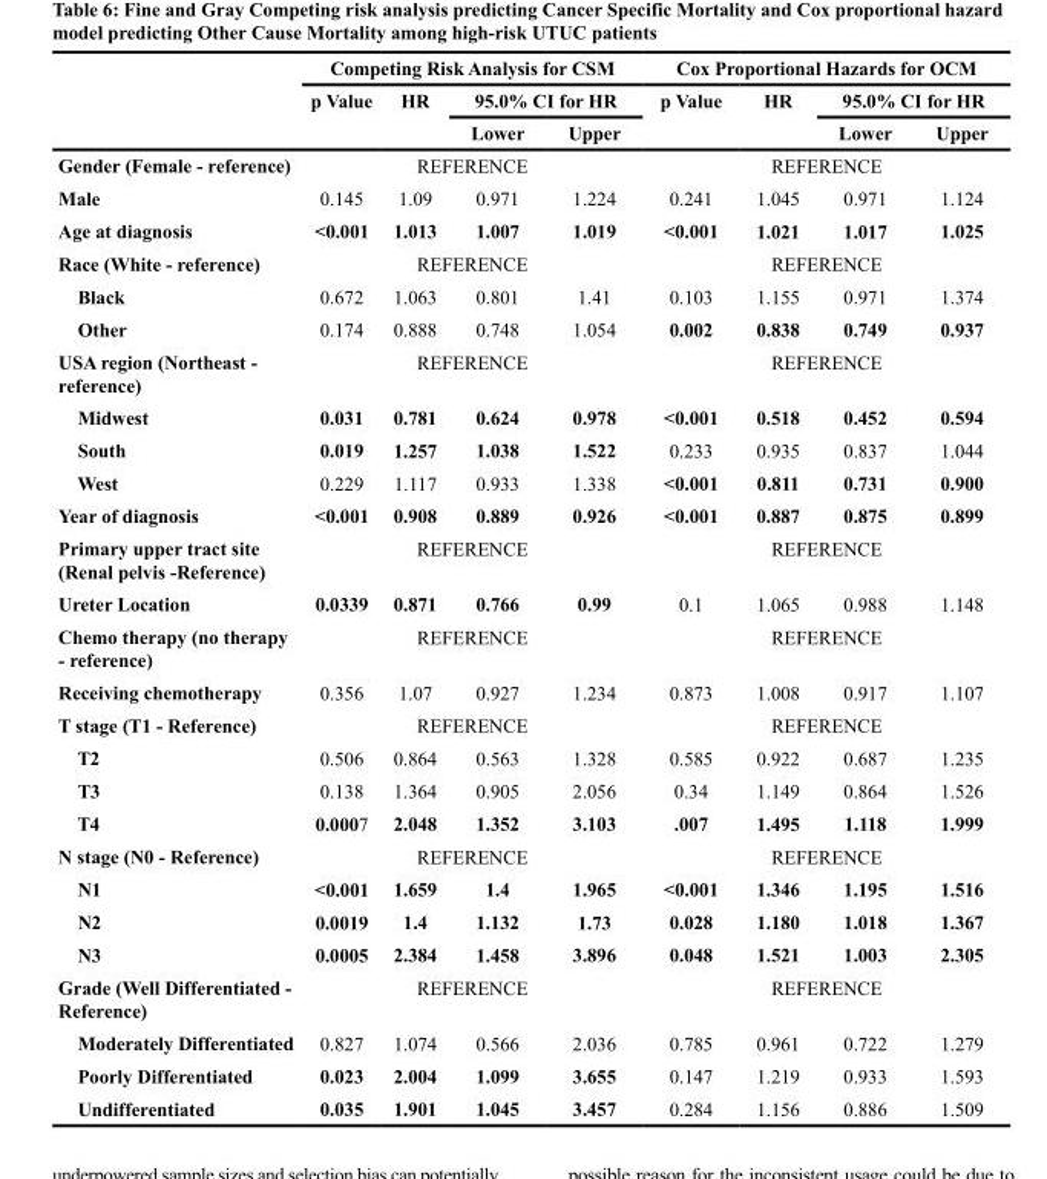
<table><thead><tr><td rowspan="3"></td><td colspan="4">Competing Risk Analysis for CSM</td><td colspan="4">Cox Proportional Hazards for OCM</td></tr><tr><td rowspan="2">p Value</td><td rowspan="2">HR</td><td colspan="2">95.0% CI for HR</td><td rowspan="2">p Value</td><td rowspan="2">HR</td><td colspan="2">95.0% CI for HR</td></tr><tr><td>Lower</td><td>Upper</td><td>Lower</td><td>Upper</td></tr></thead><tbody><tr><td>Gender (Female - reference)</td><td colspan="4">REFERENCE</td><td colspan="4">REFERENCE</td></tr><tr><td>Male</td><td>0.145</td><td>1.09</td><td>0.971</td><td>1.224</td><td>0.241</td><td>1.045</td><td>0.971</td><td>1.124</td></tr><tr><td>Age at diagnosis</td><td>&lt;0.001</td><td>1.013</td><td>1.007</td><td>1.019</td><td>&lt;0.001</td><td>1.021</td><td>1.017</td><td>1.025</td></tr><tr><td>Race (White - reference)</td><td colspan="4">REFERENCE</td><td colspan="4">REFERENCE</td></tr><tr><td>Black</td><td>0.672</td><td>1.063</td><td>0.801</td><td>1.41</td><td>0.103</td><td>1.155</td><td>0.971</td><td>1.374</td></tr><tr><td>Other</td><td>0.174</td><td>0.888</td><td>0.748</td><td>1.054</td><td>0.002</td><td>0.838</td><td>0.749</td><td>0.937</td></tr><tr><td>USA region (Northeast - reference)</td><td colspan="4">REFERENCE</td><td colspan="4">REFERENCE</td></tr><tr><td>Midwest</td><td>0.031</td><td>0.781</td><td>0.624</td><td>0.978</td><td>&lt;0.001</td><td>0.518</td><td>0.452</td><td>0.594</td></tr><tr><td>South</td><td>0.019</td><td>1.257</td><td>1.038</td><td>1.522</td><td>0.233</td><td>0.935</td><td>0.837</td><td>1.044</td></tr><tr><td>West</td><td>0.229</td><td>1.117</td><td>0.933</td><td>1.338</td><td>&lt;0.001</td><td>0.811</td><td>0.731</td><td>0.900</td></tr><tr><td>Year of diagnosis</td><td>&lt;0.001</td><td>0.908</td><td>0.889</td><td>0.926</td><td>&lt;0.001</td><td>0.887</td><td>0.875</td><td>0.899</td></tr><tr><td>Primary upper tract site (Renal pelvis -Reference)</td><td colspan="4">REFERENCE</td><td colspan="4">REFERENCE</td></tr><tr><td>Ureter Location</td><td>0.0339</td><td>0.871</td><td>0.766</td><td>0.99</td><td>0.1</td><td>1.065</td><td>0.988</td><td>1.148</td></tr><tr><td>Chemo therapy (no therapy - reference)</td><td colspan="4">REFERENCE</td><td colspan="4">REFERENCE</td></tr><tr><td>Receiving chemotherapy</td><td>0.356</td><td>1.07</td><td>0.927</td><td>1.234</td><td>0.873</td><td>1.008</td><td>0.917</td><td>1.107</td></tr><tr><td>T stage (T1 - Reference)</td><td colspan="4">REFERENCE</td><td colspan="4">REFERENCE</td></tr><tr><td>T2</td><td>0.506</td><td>0.864</td><td>0.563</td><td>1.328</td><td>0.585</td><td>0.922</td><td>0.687</td><td>1.235</td></tr><tr><td>T3</td><td>0.138</td><td>1.364</td><td>0.905</td><td>2.056</td><td>0.34</td><td>1.149</td><td>0.864</td><td>1.526</td></tr><tr><td>T4</td><td>0.0007</td><td>2.048</td><td>1.352</td><td>3.103</td><td>.007</td><td>1.495</td><td>1.118</td><td>1.999</td></tr><tr><td>N stage (N0 - Reference)</td><td colspan="4">REFERENCE</td><td colspan="4">REFERENCE</td></tr><tr><td>N1</td><td>&lt;0.001</td><td>1.659</td><td>1.4</td><td>1.965</td><td>&lt;0.001</td><td>1.346</td><td>1.195</td><td>1.516</td></tr><tr><td>N2</td><td>0.0019</td><td>1.4</td><td>1.132</td><td>1.73</td><td>0.028</td><td>1.180</td><td>1.018</td><td>1.367</td></tr><tr><td>N3</td><td>0.0005</td><td>2.384</td><td>1.458</td><td>3.896</td><td>0.048</td><td>1.521</td><td>1.003</td><td>2.305</td></tr><tr><td>Grade (Well Differentiated - Reference)</td><td colspan="4">REFERENCE</td><td colspan="4">REFERENCE</td></tr><tr><td>Moderately Differentiated</td><td>0.827</td><td>1.074</td><td>0.566</td><td>2.036</td><td>0.785</td><td>0.961</td><td>0.722</td><td>1.279</td></tr><tr><td>Poorly Differentiated</td><td>0.023</td><td>2.004</td><td>1.099</td><td>3.655</td><td>0.147</td><td>1.219</td><td>0.933</td><td>1.593</td></tr><tr><td>Undifferentiated</td><td>0.035</td><td>1.901</td><td>1.045</td><td>3.457</td><td>0.284</td><td>1.156</td><td>0.886</td><td>1.509</td></tr></tbody></table>